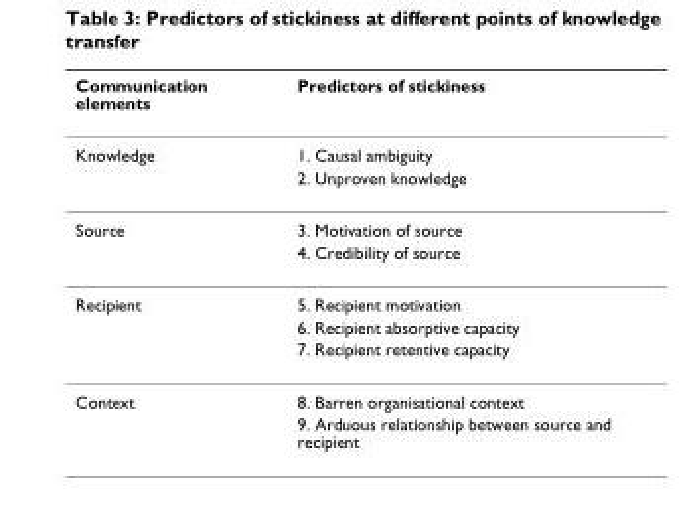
<table><thead><tr><td>Communication elements</td><td>Predictors of stickiness</td></tr></thead><tbody><tr><td rowspan="2">Knowledge</td><td>1. Causal ambiguity</td></tr><tr><td>2. Unproven knowledge</td></tr><tr><td rowspan="2">Source</td><td>3. Motivation of source</td></tr><tr><td>4. Credibility of source</td></tr><tr><td rowspan="3">Recipient</td><td>5. Recipient motivation</td></tr><tr><td>6. Recipient absorptive capacity</td></tr><tr><td>7. Recipient retentive capacity</td></tr><tr><td rowspan="2">Context</td><td>8. Barren organisational context</td></tr><tr><td>9. Arduous relationship between source and recipient</td></tr></tbody></table>